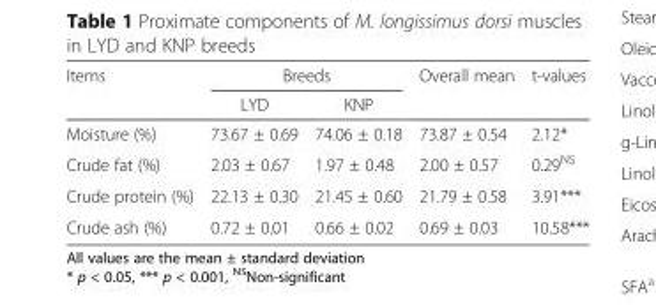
<table><thead><tr><td rowspan="2">Items</td><td colspan="2">Breeds</td><td rowspan="2">Overall mean</td><td rowspan="2">t-values</td></tr><tr><td>LYD</td><td>KNP</td></tr></thead><tbody><tr><td>Moisture (%)</td><td>73.67 ± 0.69</td><td>74.06 ± 0.18</td><td>73.87 ± 0.54</td><td>2.12*</td></tr><tr><td>Crude fat (%)</td><td>2.03 ± 0.67</td><td>1.97 ± 0.48</td><td>2.00 ± 0.57</td><td>0.29<sup>NS</sup></td></tr><tr><td>Crude protein (%)</td><td>22.13 ± 0.30</td><td>21.45 ± 0.60</td><td>21.79 ± 0.58</td><td>3.91***</td></tr><tr><td>Crude ash (%)</td><td>0.72 ± 0.01</td><td>0.66 ± 0.02</td><td>0.69 ± 0.03</td><td>10.58***</td></tr></tbody></table>